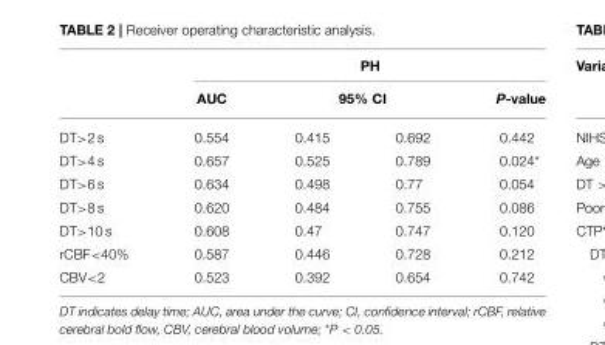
<table><thead><tr><td rowspan="3">DT&gt;2 s</td><td colspan="4">PH</td></tr><tr><td rowspan="2">AUC 0.554</td><td colspan="2">95% CI</td><td rowspan="2">P-value 0.442</td></tr><tr><td>0.415</td><td>0.692</td></tr></thead><tbody><tr><td>DT&gt;4 s</td><td>0.657</td><td>0.525</td><td>0.789</td><td>0.024*</td></tr><tr><td>DT&gt;6 s</td><td>0.634</td><td>0.498</td><td>0.77</td><td>0.054</td></tr><tr><td>DT&gt;8 s</td><td>0.620</td><td>0.484</td><td>0.755</td><td>0.086</td></tr><tr><td>DT&gt;10 s</td><td>0.608</td><td>0.47</td><td>0.747</td><td>0.120</td></tr><tr><td>rCBF&lt;40%</td><td>0.587</td><td>0.446</td><td>0.728</td><td>0.212</td></tr><tr><td>CBV&lt;2</td><td>0.523</td><td>0.392</td><td>0.654</td><td>0.742</td></tr></tbody></table>